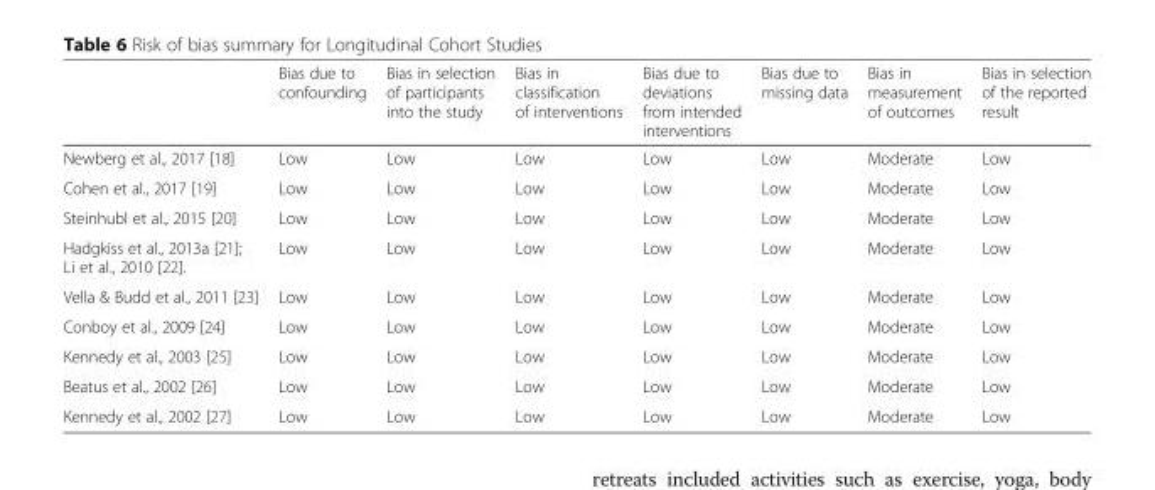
<table><thead><tr><td></td><td>Bias due to confounding</td><td>Bias in selection of participants into the study</td><td>Bias in classification of interventions</td><td>Bias due to deviations from intended interventions</td><td>Bias due to missing data</td><td>Bias in measurement of outcomes</td><td>Bias in selection of the reported result</td></tr></thead><tbody><tr><td>Newberg et al., 2017 [18]</td><td>Low</td><td>Low</td><td>Low</td><td>Low</td><td>Low</td><td>Moderate</td><td>Low</td></tr><tr><td>Cohen et al., 2017 [19]</td><td>Low</td><td>Low</td><td>Low</td><td>Low</td><td>Low</td><td>Moderate</td><td>Low</td></tr><tr><td>Steinhubl et al., 2015 [20]</td><td>Low</td><td>Low</td><td>Low</td><td>Low</td><td>Low</td><td>Moderate</td><td>Low</td></tr><tr><td>Hadgkiss et al., 2013a [21]; Li et al., 2010 [22].</td><td>Low</td><td>Low</td><td>Low</td><td>Low</td><td>Low</td><td>Moderate</td><td>Low</td></tr><tr><td>Vella &amp; Budd et al., 2011 [23]</td><td>Low</td><td>Low</td><td>Low</td><td>Low</td><td>Low</td><td>Moderate</td><td>Low</td></tr><tr><td>Conboy et al., 2009 [24]</td><td>Low</td><td>Low</td><td>Low</td><td>Low</td><td>Low</td><td>Moderate</td><td>Low</td></tr><tr><td>Kennedy et al., 2003 [25]</td><td>Low</td><td>Low</td><td>Low</td><td>Low</td><td>Low</td><td>Moderate</td><td>Low</td></tr><tr><td>Beatus et al., 2002 [26]</td><td>Low</td><td>Low</td><td>Low</td><td>Low</td><td>Low</td><td>Moderate</td><td>Low</td></tr><tr><td>Kennedy et al., 2002 [27]</td><td>Low</td><td>Low</td><td>Low</td><td>Low</td><td>Low</td><td>Moderate</td><td>Low</td></tr></tbody></table>